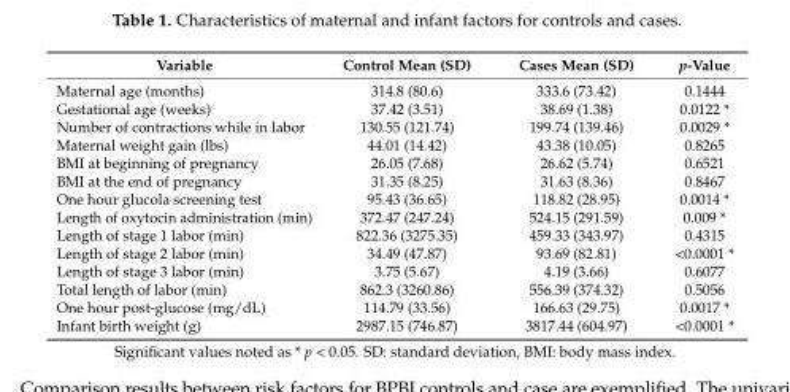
<table><thead><tr><td>Variable</td><td>Control Mean (SD)</td><td>Cases Mean (SD)</td><td>p-Value</td></tr></thead><tbody><tr><td>Maternal age (months)</td><td>314.8 (80.6)</td><td>333.6 (73.42)</td><td>0.1444</td></tr><tr><td>Gestational age (weeks)</td><td>37.42 (3.51)</td><td>38.69 (1.38)</td><td>0.0122 *</td></tr><tr><td>Number of contractions while in labor</td><td>130.55 (121.74)</td><td>199.74 (139.46)</td><td>0.0029 *</td></tr><tr><td>Maternal weight gain (lbs)</td><td>44.01 (14.42)</td><td>43.38 (10.05)</td><td>0.8265</td></tr><tr><td>BMI at beginning of pregnancy</td><td>26.05 (7.68)</td><td>26.62 (5.74)</td><td>0.6521</td></tr><tr><td>BMI at the end of pregnancy</td><td>31.35 (8.25)</td><td>31.63 (8.36)</td><td>0.8467</td></tr><tr><td>One hour glucola screening test</td><td>95.43 (36.65)</td><td>118.82 (28.95)</td><td>0.0014 *</td></tr><tr><td>Length of oxytocin administration (min)</td><td>372.47 (247.24)</td><td>524.15 (291.59)</td><td>0.009 *</td></tr><tr><td>Length of stage 1 labor (min)</td><td>822.36 (3275.35)</td><td>459.33 (343.97)</td><td>0.4315</td></tr><tr><td>Length of stage 2 labor (min)</td><td>34.49 (47.87)</td><td>93.69 (82.81)</td><td>&lt;0.0001 *</td></tr><tr><td>Length of stage 3 labor (min)</td><td>3.75 (5.67)</td><td>4.19 (3.66)</td><td>0.6077</td></tr><tr><td>Total length of labor (min)</td><td>862.3 (3260.86)</td><td>556.39 (374.32)</td><td>0.5056</td></tr><tr><td>One hour post-glucose (mg/dL)</td><td>114.79 (33.56)</td><td>166.63 (29.75)</td><td>0.0017 *</td></tr><tr><td>Infant birth weight (g)</td><td>2987.15 (746.87)</td><td>3817.44 (604.97)</td><td>&lt;0.0001 *</td></tr></tbody></table>